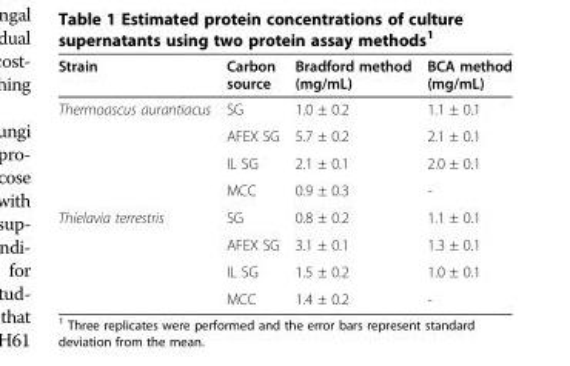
<table><thead><tr><td>Strain</td><td>Carbon source</td><td>Bradford method (mg/mL)</td><td>BCA method (mg/mL)</td></tr></thead><tbody><tr><td rowspan="4">Thermoascus aurantiacus</td><td>SG</td><td>1.0 ± 0.2</td><td>1.1 ± 0.1</td></tr><tr><td>AFEX SG</td><td>5.7 ± 0.2</td><td>2.1 ± 0.1</td></tr><tr><td>IL SG</td><td>2.1 ± 0.1</td><td>2.0 ± 0.1</td></tr><tr><td>MCC</td><td>0.9 ± 0.3</td><td>-</td></tr><tr><td rowspan="4">Thielavia terrestris</td><td>SG</td><td>0.8 ± 0.2</td><td>1.1 ± 0.1</td></tr><tr><td>AFEX SG</td><td>3.1 ± 0.1</td><td>1.3 ± 0.1</td></tr><tr><td>IL SG</td><td>1.5 ± 0.2</td><td>1.0 ± 0.1</td></tr><tr><td>MCC</td><td>1.4 ± 0.2</td><td>-</td></tr></tbody></table>